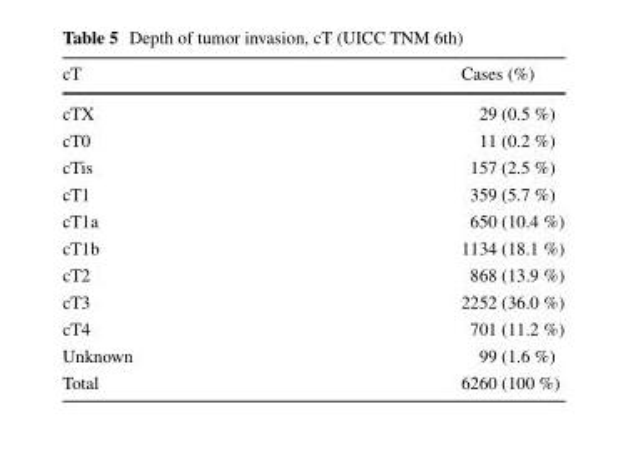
<table><thead><tr><td>cT</td><td>Cases (%)</td></tr></thead><tbody><tr><td>cTX</td><td>29 (0.5 %)</td></tr><tr><td>cT0</td><td>11 (0.2 %)</td></tr><tr><td>cTis</td><td>157 (2.5 %)</td></tr><tr><td>cT1</td><td>359 (5.7 %)</td></tr><tr><td>cT1a</td><td>650 (10.4 %)</td></tr><tr><td>cT1b</td><td>1134 (18.1 %)</td></tr><tr><td>cT2</td><td>868 (13.9 %)</td></tr><tr><td>cT3</td><td>2252 (36.0 %)</td></tr><tr><td>cT4</td><td>701 (11.2 %)</td></tr><tr><td>Unknown</td><td>99 (1.6 %)</td></tr><tr><td>Total</td><td>6260 (100 %)</td></tr></tbody></table>